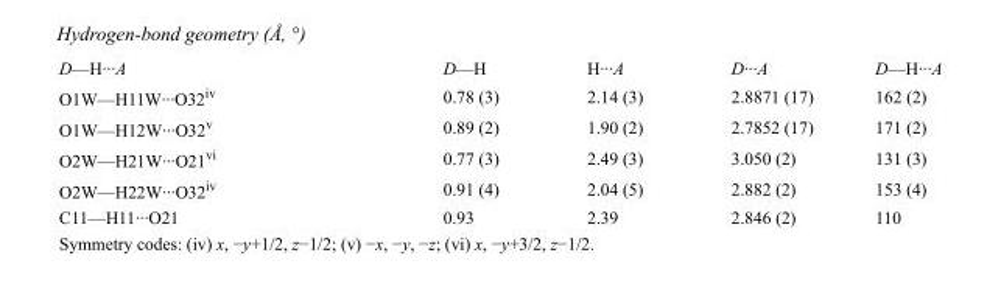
<table><tbody><tr><td>D—H···A</td><td>D—H</td><td>H···A</td><td>D···A</td><td>D—H···A</td></tr><tr><td>O1W—H11W···O32<sup>iv</sup></td><td>0.78 (3)</td><td>2.14 (3)</td><td>2.8871 (17)</td><td>162 (2)</td></tr><tr><td>O1W—H12W···O32<sup>v</sup></td><td>0.89 (2)</td><td>1.90 (2)</td><td>2.7852 (17)</td><td>171 (2)</td></tr><tr><td>O2W—H21W···O21<sup>vi</sup></td><td>0.77 (3)</td><td>2.49 (3)</td><td>3.050 (2)</td><td>131 (3)</td></tr><tr><td>O2W—H22W···O32<sup>iv</sup></td><td>0.91 (4)</td><td>2.04 (5)</td><td>2.882 (2)</td><td>153 (4)</td></tr><tr><td>C11—H11···O21</td><td>0.93</td><td>2.39</td><td>2.846 (2)</td><td>110</td></tr></tbody></table>